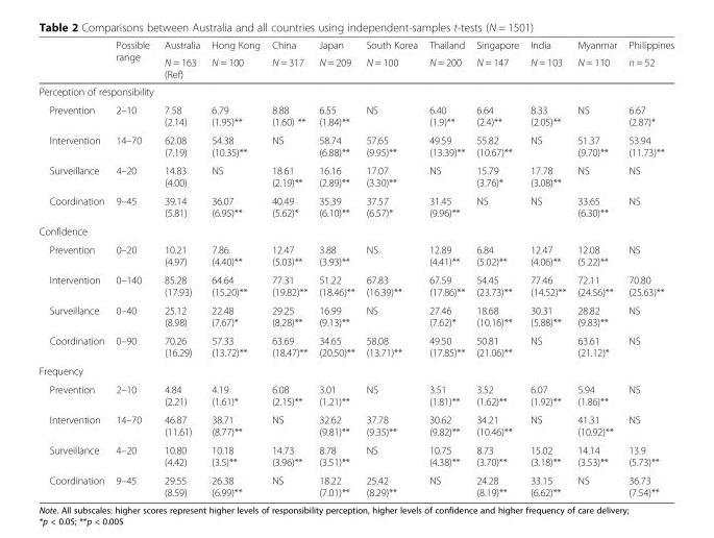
<table><thead><tr><td rowspan="2"></td><td rowspan="2">Possible range</td><td rowspan="2">Australia N = 163 (Ref)</td><td rowspan="2">Hong Kong N = 100</td><td rowspan="2">China N = 317</td><td rowspan="2">Japan N = 209</td><td rowspan="2">South Korea N = 100</td><td rowspan="2">Thailand N = 200</td><td rowspan="2">Singapore N = 147</td><td rowspan="2">India N = 103</td><td rowspan="2">Myanmar N = 110</td><td rowspan="2">Philippines n = 52</td></tr><tr></tr></thead><tbody><tr><td colspan="12">Perception of responsibility</td></tr><tr><td>Prevention</td><td>2–10</td><td>7.58 (2.14)</td><td>6.79 (1.95)**</td><td>8.88 (1.60) **</td><td>6.55 (1.84)**</td><td>NS</td><td>6.40 (1.9)**</td><td>6.64 (2.4)**</td><td>8.33 (2.05)**</td><td>NS</td><td>6.67 (2.87)*</td></tr><tr><td>Intervention</td><td>14–70</td><td>62.08 (7.19)</td><td>54.38 (10.35)**</td><td>NS</td><td>58.74 (6.88)**</td><td>57.65 (9.95)**</td><td>49.59 (13.39)**</td><td>55.82 (10.67)**</td><td>NS</td><td>51.37 (9.70)**</td><td>53.94 (11.73)**</td></tr><tr><td>Surveillance</td><td>4–20</td><td>14.83 (4.00)</td><td>NS</td><td>18.61 (2.19)**</td><td>16.16 (2.89)**</td><td>17.07 (3.30)**</td><td>NS</td><td>15.79 (3.76)*</td><td>17.78 (3.08)**</td><td>NS</td><td>NS</td></tr><tr><td>Coordination</td><td>9–45</td><td>39.14 (5.81)</td><td>36.07 (6.95)**</td><td>40.49 (5.62)*</td><td>35.39 (6.10)**</td><td>37.57 (6.57)*</td><td>31.45 (9.96)**</td><td>NS</td><td>NS</td><td>33.65 (6.30)**</td><td>NS</td></tr><tr><td colspan="12">Confidence</td></tr><tr><td>Prevention</td><td>0–20</td><td>10.21 (4.97)</td><td>7.86 (4.40)**</td><td>12.47 (5.03)**</td><td>3.88 (3.93)**</td><td>NS</td><td>12.89 (4.41)**</td><td>6.84 (5.02)**</td><td>12.47 (4.06)**</td><td>12.08 (5.22)**</td><td>NS</td></tr><tr><td>Intervention</td><td>0–140</td><td>85.28 (17.93)</td><td>64.64 (15.20)**</td><td>77.31 (19.82)**</td><td>51.22 (18.46)**</td><td>67.83 (16.39)**</td><td>67.59 (17.86)**</td><td>54.45 (23.73)**</td><td>77.46 (14.52)**</td><td>72.11 (24.56)**</td><td>70.80 (25.63)**</td></tr><tr><td>Surveillance</td><td>0–40</td><td>25.12 (8.98)</td><td>22.48 (7.67)*</td><td>29.25 (8.28)**</td><td>16.99 (9.13)**</td><td>NS</td><td>27.46 (7.62)*</td><td>18.68 (10.16)**</td><td>30.31 (5.88)**</td><td>28.82 (9.83)**</td><td>NS</td></tr><tr><td>Coordination</td><td>0–90</td><td>70.26 (16.29)</td><td>57.33 (13.72)**</td><td>63.69 (18.47)**</td><td>34.65 (20.50)**</td><td>58.08 (13.71)**</td><td>49.50 (17.85)**</td><td>50.81 (21.06)**</td><td>NS</td><td>63.61 (21.12)*</td><td>NS</td></tr><tr><td colspan="12">Frequency</td></tr><tr><td>Prevention</td><td>2–10</td><td>4.84 (2.21)</td><td>4.19 (1.61)*</td><td>6.08 (2.15)**</td><td>3.01 (1.21)**</td><td>NS</td><td>3.51 (1.81)**</td><td>3.52 (1.62)**</td><td>6.07 (1.92)**</td><td>5.94 (1.86)**</td><td>NS</td></tr><tr><td>Intervention</td><td>14–70</td><td>46.87 (11.61)</td><td>38.71 (8.77)**</td><td>NS</td><td>32.62 (9.81)**</td><td>37.78 (9.35)**</td><td>30.62 (9.82)**</td><td>34.21 (10.46)**</td><td>NS</td><td>41.31 (10.92)**</td><td>NS</td></tr><tr><td>Surveillance</td><td>4–20</td><td>10.80 (4.42)</td><td>10.18 (3.5)**</td><td>14.73 (3.96)**</td><td>8.78 (3.51)**</td><td>NS</td><td>10.75 (4.38)**</td><td>8.73 (3.70)**</td><td>15.02 (3.18)**</td><td>14.14 (3.53)**</td><td>13.9 (5.73)**</td></tr><tr><td>Coordination</td><td>9–45</td><td>29.55 (8.59)</td><td>26.38 (6.99)**</td><td>NS</td><td>18.22 (7.01)**</td><td>25.42 (8.29)**</td><td>NS</td><td>24.28 (8.19)**</td><td>33.15 (6.62)**</td><td>NS</td><td>36.73 (7.54)**</td></tr></tbody></table>